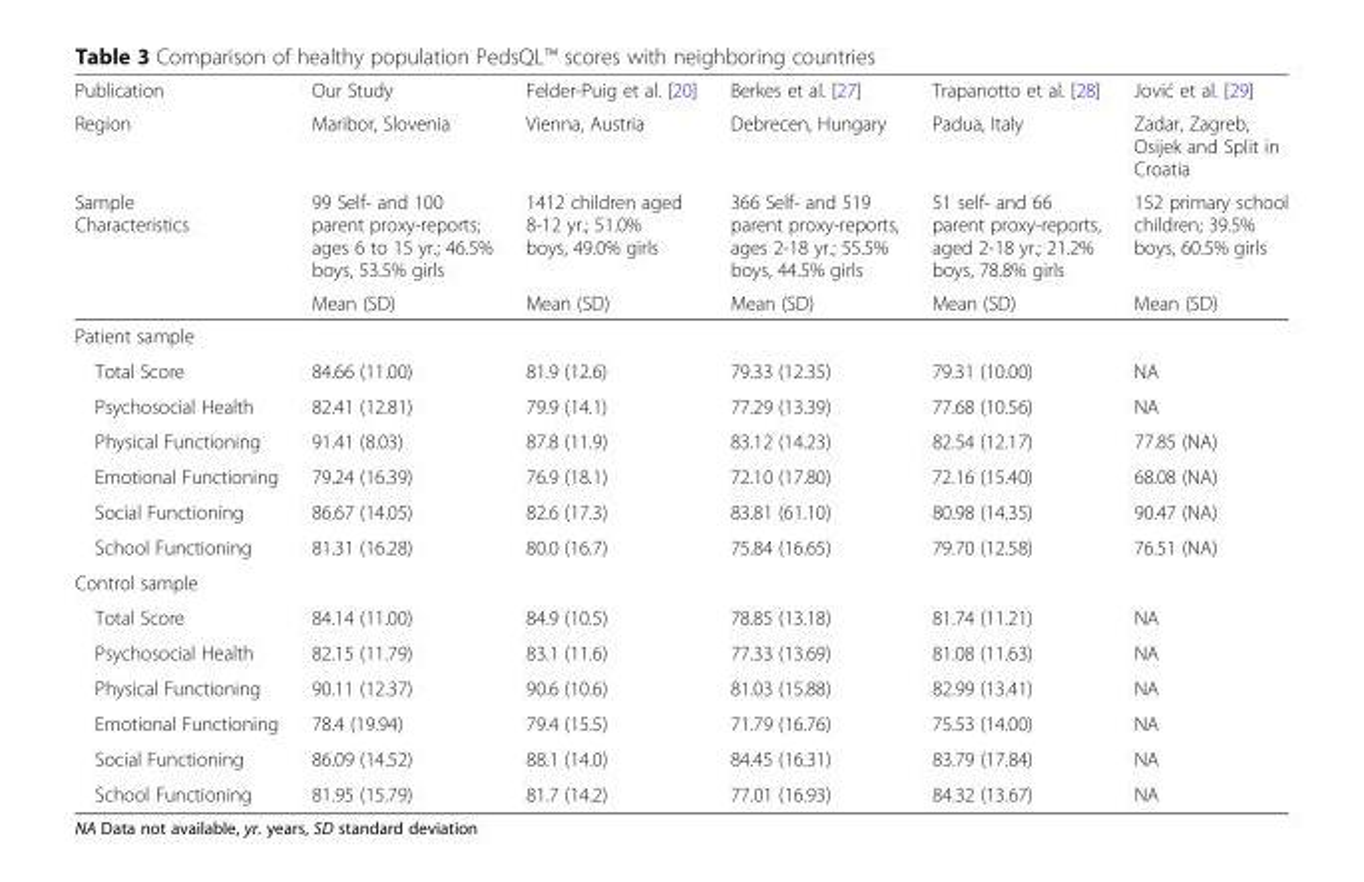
<table><thead><tr><td rowspan="4">Publication Region Sample Characteristics</td><td rowspan="4">Our Study Maribor, Slovenia 99 Self- and 100 parent proxy-reports; ages 6 to 15 yr.; 46.5% boys, 53.5% girls Mean (SD)</td><td rowspan="4">Felder-Puig et al. [20] Vienna, Austria 1412 children aged 8-12 yr.; 51.0% boys, 49.0% girls Mean (SD)</td><td rowspan="4">Berkes et al. [27] Debrecen, Hungary 366 Self- and 519 parent proxy-reports, ages 2-18 yr.; 55.5% boys, 44.5% girls Mean (SD)</td><td rowspan="4">Trapanotto et al. [28] Padua, Italy 51 self- and 66 parent proxy-reports, aged 2-18 yr.; 21.2% boys, 78.8% girls Mean (SD)</td><td rowspan="4">Jović et al. [29] Zadar, Zagreb, Osijek and Split in Croatia 152 primary school children; 39.5% boys, 60.5% girls Mean (SD)</td></tr><tr></tr><tr></tr><tr></tr></thead><tbody><tr><td colspan="6">Patient sample</td></tr><tr><td>Total Score</td><td>84.66 (11.00)</td><td>81.9 (12.6)</td><td>79.33 (12.35)</td><td>79.31 (10.00)</td><td>NA</td></tr><tr><td>Psychosocial Health</td><td>82.41 (12.81)</td><td>79.9 (14.1)</td><td>77.29 (13.39)</td><td>77.68 (10.56)</td><td>NA</td></tr><tr><td>Physical Functioning</td><td>91.41 (8.03)</td><td>87.8 (11.9)</td><td>83.12 (14.23)</td><td>82.54 (12.17)</td><td>77.85 (NA)</td></tr><tr><td>Emotional Functioning</td><td>79.24 (16.39)</td><td>76.9 (18.1)</td><td>72.10 (17.80)</td><td>72.16 (15.40)</td><td>68.08 (NA)</td></tr><tr><td>Social Functioning</td><td>86.67 (14.05)</td><td>82.6 (17.3)</td><td>83.81 (61.10)</td><td>80.98 (14.35)</td><td>90.47 (NA)</td></tr><tr><td>School Functioning</td><td>81.31 (16.28)</td><td>80.0 (16.7)</td><td>75.84 (16.65)</td><td>79.70 (12.58)</td><td>76.51 (NA)</td></tr><tr><td colspan="6">Control sample</td></tr><tr><td>Total Score</td><td>84.14 (11.00)</td><td>84.9 (10.5)</td><td>78.85 (13.18)</td><td>81.74 (11.21)</td><td>NA</td></tr><tr><td>Psychosocial Health</td><td>82.15 (11.79)</td><td>83.1 (11.6)</td><td>77.33 (13.69)</td><td>81.08 (11.63)</td><td>NA</td></tr><tr><td>Physical Functioning</td><td>90.11 (12.37)</td><td>90.6 (10.6)</td><td>81.03 (15.88)</td><td>82.99 (13.41)</td><td>NA</td></tr><tr><td>Emotional Functioning</td><td>78.4 (19.94)</td><td>79.4 (15.5)</td><td>71.79 (16.76)</td><td>75.53 (14.00)</td><td>NA</td></tr><tr><td>Social Functioning</td><td>86.09 (14.52)</td><td>88.1 (14.0)</td><td>84.45 (16.31)</td><td>83.79 (17.84)</td><td>NA</td></tr><tr><td>School Functioning</td><td>81.95 (15.79)</td><td>81.7 (14.2)</td><td>77.01 (16.93)</td><td>84.32 (13.67)</td><td>NA</td></tr></tbody></table>